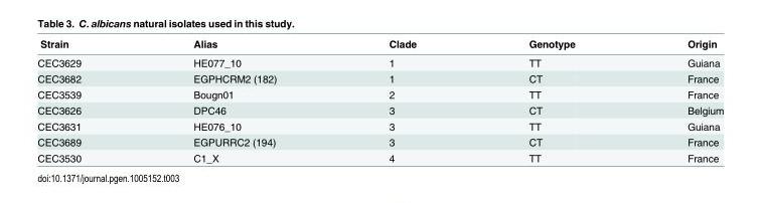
<table><thead><tr><td>Strain</td><td>Alias</td><td>Clade</td><td>Genotype</td><td>Origin</td></tr></thead><tbody><tr><td>CEC3629</td><td>HE077_10</td><td>1</td><td>TT</td><td>Guiana</td></tr><tr><td>CEC3682</td><td>EGPHCRM2 (182)</td><td>1</td><td>CT</td><td>France</td></tr><tr><td>CEC3539</td><td>Bougn01</td><td>2</td><td>TT</td><td>France</td></tr><tr><td>CEC3626</td><td>DPC46</td><td>3</td><td>CT</td><td>Belgium</td></tr><tr><td>CEC3631</td><td>HE076_10</td><td>3</td><td>TT</td><td>Guiana</td></tr><tr><td>CEC3689</td><td>EGPURRC2 (194)</td><td>3</td><td>CT</td><td>France</td></tr><tr><td>CEC3530</td><td>C1_X</td><td>4</td><td>TT</td><td>France</td></tr></tbody></table>